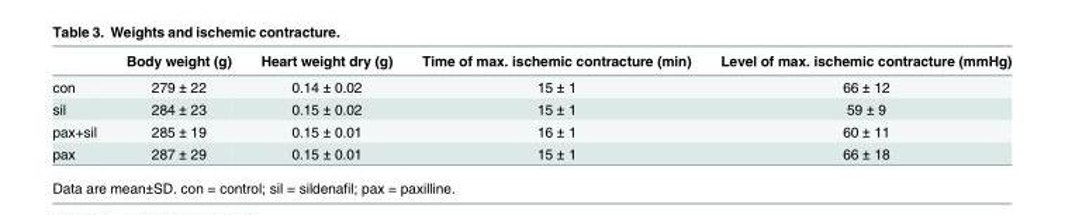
<table><thead><tr><td></td><td>Body weight (g)</td><td>Heart weight dry (g)</td><td>Time of max. ischemic contracture (min)</td><td>Level of max. ischemic contracture (mmHg)</td></tr></thead><tbody><tr><td>con</td><td>279 ± 22</td><td>0.14 ± 0.02</td><td>15 ± 1</td><td>66 ± 12</td></tr><tr><td>sil</td><td>284 ± 23</td><td>0.15 ± 0.02</td><td>15 ± 1</td><td>59 ± 9</td></tr><tr><td>pax+sil</td><td>285 ± 19</td><td>0.15 ± 0.01</td><td>16 ± 1</td><td>60 ± 11</td></tr><tr><td>pax</td><td>287 ± 29</td><td>0.15 ± 0.01</td><td>15 ± 1</td><td>66 ± 18</td></tr></tbody></table>